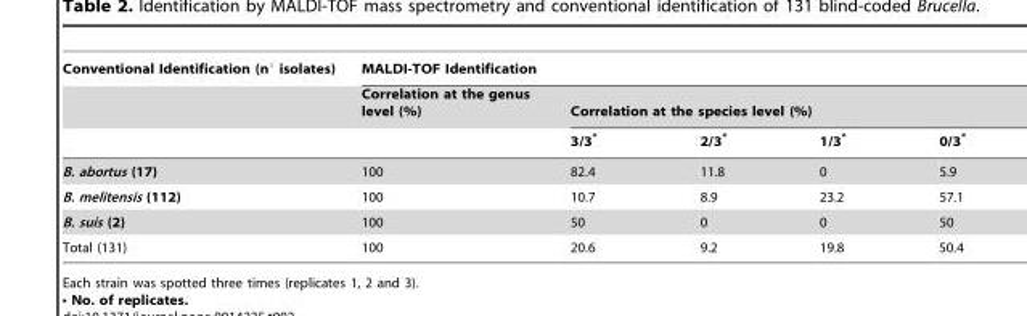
<table><thead><tr><td rowspan="3">Conventional Identification (n° isolates)</td><td colspan="5">MALDI-TOF Identification</td></tr><tr><td rowspan="2">Correlation at the genus level (%)</td><td colspan="4">Correlation at the species level (%)</td></tr><tr><td>3/3*</td><td>2/3*</td><td>1/3*</td><td>0/3*</td></tr></thead><tbody><tr><td>B. abortus (17)</td><td>100</td><td>82.4</td><td>11.8</td><td>0</td><td>5.9</td></tr><tr><td>B. melitensis (112)</td><td>100</td><td>10.7</td><td>8.9</td><td>23.2</td><td>57.1</td></tr><tr><td>B. suis (2)</td><td>100</td><td>50</td><td>0</td><td>0</td><td>50</td></tr><tr><td>Total (131)</td><td>100</td><td>20.6</td><td>9.2</td><td>19.8</td><td>50.4</td></tr></tbody></table>